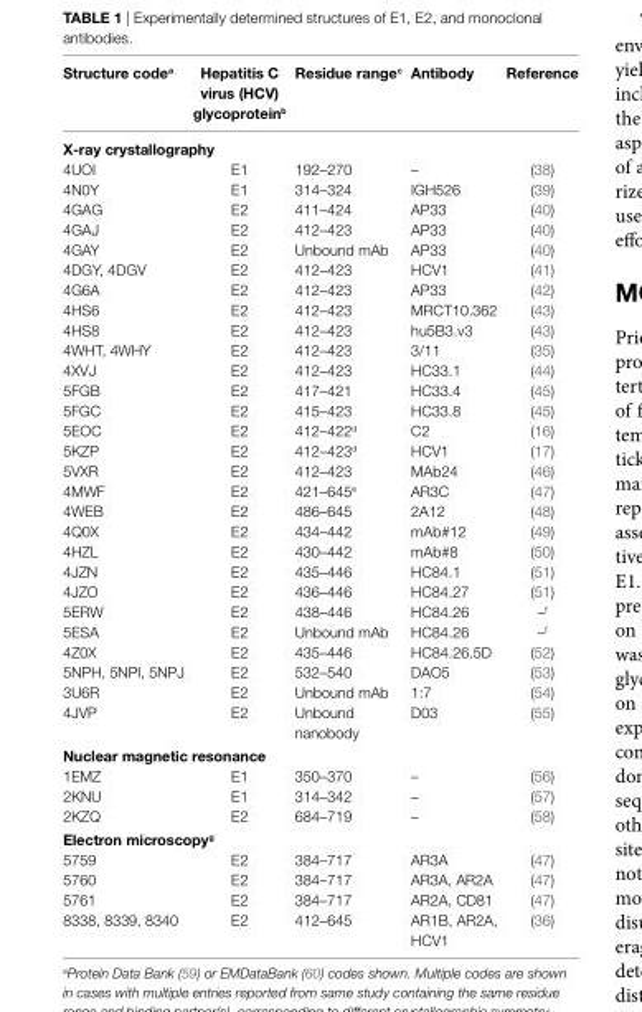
<table><thead><tr><td>Structure code<sup>a</sup></td><td>Hepatitis C virus (HCv) glycoprotein<sup>b</sup></td><td>Residue range<sup>c</sup></td><td>Antibody</td><td>Reference</td></tr></thead><tbody><tr><td colspan="5">X-ray crystallography</td></tr><tr><td>4UOI</td><td>E1</td><td>192–270</td><td>–</td><td>(38)</td></tr><tr><td>4N0Y</td><td>E1</td><td>314–324</td><td>IGH526</td><td>(39)</td></tr><tr><td>4GAG</td><td>E2</td><td>411–424</td><td>AP33</td><td>(40)</td></tr><tr><td>4GAJ</td><td>E2</td><td>412–423</td><td>AP33</td><td>(40)</td></tr><tr><td>4GAY</td><td>E2</td><td>Unbound mAb</td><td>AP33</td><td>(40)</td></tr><tr><td>4DGY, 4DGV</td><td>E2</td><td>412–423</td><td>HCV1</td><td>(41)</td></tr><tr><td>4G6A</td><td>E2</td><td>412–423</td><td>AP33</td><td>(42)</td></tr><tr><td>4HS6</td><td>E2</td><td>412–423</td><td>MRCT10.362</td><td>(43)</td></tr><tr><td>4HS8</td><td>E2</td><td>412–423</td><td>hu5B3.v3</td><td>(43)</td></tr><tr><td>4WHT, 4WHY</td><td>E2</td><td>412–423</td><td>3/11</td><td>(35)</td></tr><tr><td>4XVJ</td><td>E2</td><td>412–423</td><td>HC33.1</td><td>(44)</td></tr><tr><td>5FGB</td><td>E2</td><td>417–421</td><td>HC33.4</td><td>(45)</td></tr><tr><td>5FGC</td><td>E2</td><td>415–423</td><td>HC33.8</td><td>(45)</td></tr><tr><td>5EOC</td><td>E2</td><td>412–422<sup>d</sup></td><td>C2</td><td>(16)</td></tr><tr><td>5KZP</td><td>E2</td><td>412–423<sup>d</sup></td><td>HCV1</td><td>(17)</td></tr><tr><td>5VXR</td><td>E2</td><td>412–423</td><td>MAb24</td><td>(46)</td></tr><tr><td>4MWF</td><td>E2</td><td>421–645<sup>e</sup></td><td>AR3C</td><td>(47)</td></tr><tr><td>4WEB</td><td>E2</td><td>486–645</td><td>2A12</td><td>(48)</td></tr><tr><td>4Q0X</td><td>E2</td><td>434–442</td><td>mAb#12</td><td>(49)</td></tr><tr><td>4HZL</td><td>E2</td><td>430–442</td><td>mAb#8</td><td>(50)</td></tr><tr><td>4JZN</td><td>E2</td><td>435–446</td><td>HC84.1</td><td>(51)</td></tr><tr><td>4JZO</td><td>E2</td><td>436–446</td><td>HC84.27</td><td>(51)</td></tr><tr><td>5ERW</td><td>E2</td><td>438–446</td><td>HC84.26</td><td>–<sup>f</sup></td></tr><tr><td>5ESA</td><td>E2</td><td>Unbound mAb</td><td>HC84.26</td><td>–<sup>f</sup></td></tr><tr><td>4Z0X</td><td>E2</td><td>435–446</td><td>HC84.26.5D</td><td>(52)</td></tr><tr><td>5NPH, 5NPI, 5NPJ</td><td>E2</td><td>532–540</td><td>DAO5</td><td>(53)</td></tr><tr><td>3U6R</td><td>E2</td><td>Unbound mAb</td><td>1:7</td><td>(54)</td></tr><tr><td>4JVP</td><td>E2</td><td>Unbound nanobody</td><td>D03</td><td>(55)</td></tr><tr><td colspan="5">Nuclear magnetic resonance</td></tr><tr><td>1EMZ</td><td>E1</td><td>350–370</td><td>–</td><td>(56)</td></tr><tr><td>2KNU</td><td>E1</td><td>314–342</td><td>–</td><td>(57)</td></tr><tr><td>2KZQ</td><td>E2</td><td>684–719</td><td>–</td><td>(58)</td></tr><tr><td colspan="5">electron microscopy<sup>g</sup></td></tr><tr><td>5759</td><td>E2</td><td>384–717</td><td>AR3A</td><td>(47)</td></tr><tr><td>5760</td><td>E2</td><td>384–717</td><td>AR3A, AR2A</td><td>(47)</td></tr><tr><td>5761</td><td>E2</td><td>384–717</td><td>AR2A, CD81</td><td>(47)</td></tr><tr><td>8338, 8339, 8340</td><td>E2</td><td>412–645</td><td>AR1B, AR2A, HCV1</td><td>(36)</td></tr></tbody></table>